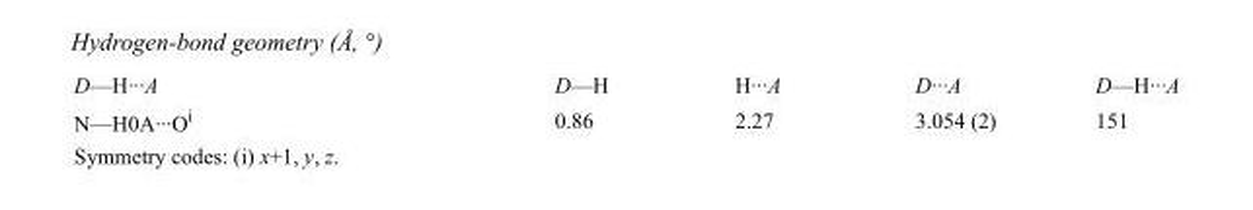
<table><tbody><tr><td>D—H···A</td><td>D—H</td><td>H···A</td><td>D···A</td><td>D—H···A</td></tr><tr><td>N—H0A···O<sup>i</sup></td><td>0.86</td><td>2.27</td><td>3.054 (2)</td><td>151</td></tr></tbody></table>